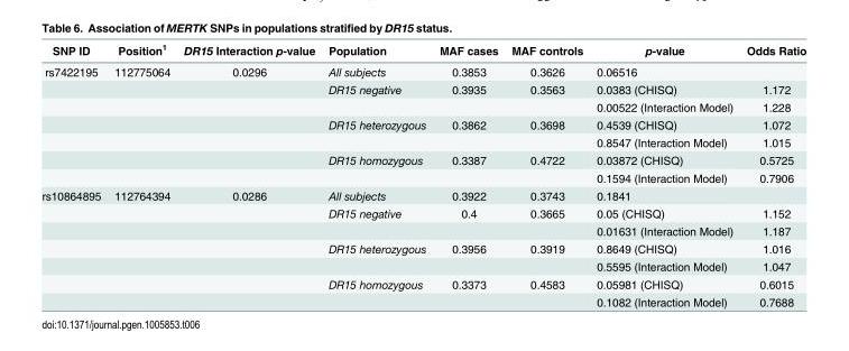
<table><thead><tr><td>SNP ID</td><td>Position<sup>1</sup></td><td>DR15 Interaction p-value</td><td>Population</td><td>MAF cases</td><td>MAF controls</td><td>p-value</td><td>Odds Ratio</td></tr></thead><tbody><tr><td rowspan="7">rs7422195</td><td>112775064</td><td>0.0296</td><td>All subjects</td><td>0.3853</td><td>0.3626</td><td>0.06516</td><td></td></tr><tr><td></td><td></td><td>DR15 negative</td><td>0.3935</td><td>0.3563</td><td>0.0383 (CHISQ)</td><td>1.172</td></tr><tr><td></td><td></td><td></td><td></td><td></td><td>0.00522 (Interaction Model)</td><td>1.228</td></tr><tr><td></td><td></td><td>DR15 heterozygous</td><td>0.3862</td><td>0.3698</td><td>0.4539 (CHISQ)</td><td>1.072</td></tr><tr><td></td><td></td><td></td><td></td><td></td><td>0.8547 (Interaction Model)</td><td>1.015</td></tr><tr><td></td><td></td><td>DR15 homozygous</td><td>0.3387</td><td>0.4722</td><td>0.03872 (CHISQ)</td><td>0.5725</td></tr><tr><td></td><td></td><td></td><td></td><td></td><td>0.1594 (Interaction Model)</td><td>0.7906</td></tr><tr><td rowspan="7">rs10864895</td><td>112764394</td><td>0.0286</td><td>All subjects</td><td>0.3922</td><td>0.3743</td><td>0.1841</td><td></td></tr><tr><td></td><td></td><td>DR15 negative</td><td>0.4</td><td>0.3665</td><td>0.05 (CHISQ)</td><td>1.152</td></tr><tr><td></td><td></td><td></td><td></td><td></td><td>0.01631 (Interaction Model)</td><td>1.187</td></tr><tr><td></td><td></td><td>DR15 heterozygous</td><td>0.3956</td><td>0.3919</td><td>0.8649 (CHISQ)</td><td>1.016</td></tr><tr><td></td><td></td><td></td><td></td><td></td><td>0.5595 (Interaction Model)</td><td>1.047</td></tr><tr><td></td><td></td><td>DR15 homozygous</td><td>0.3373</td><td>0.4583</td><td>0.05981 (CHISQ)</td><td>0.6015</td></tr><tr><td></td><td></td><td></td><td></td><td></td><td>0.1082 (Interaction Model)</td><td>0.7688</td></tr></tbody></table>